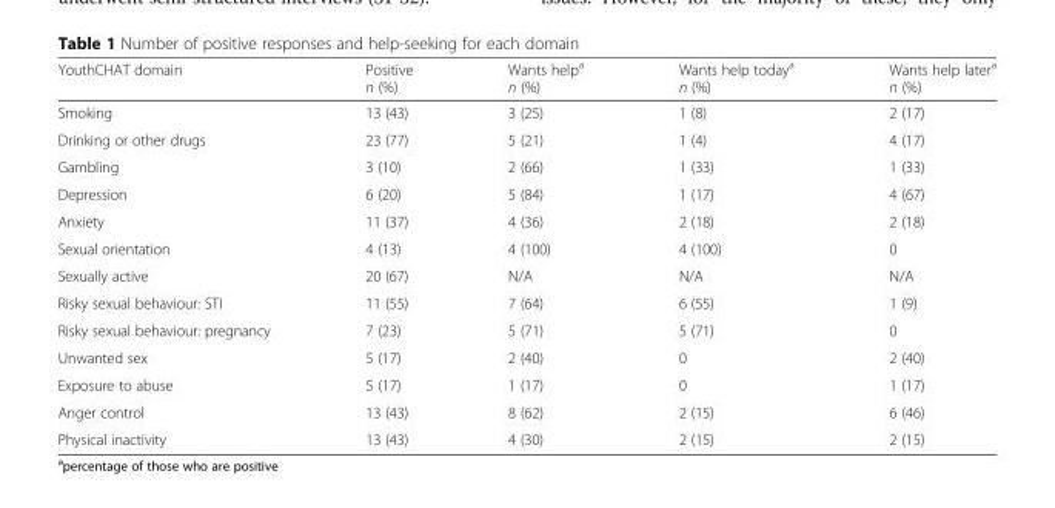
<table><thead><tr><td>YouthCHAT domain</td><td>Positive n (%)</td><td>Wants help<sup>a</sup> n (%)</td><td>Wants help today<sup>a</sup> n (%)</td><td>Wants help later<sup>a</sup> n (%)</td></tr></thead><tbody><tr><td>Smoking</td><td>13 (43)</td><td>3 (25)</td><td>1 (8)</td><td>2 (17)</td></tr><tr><td>Drinking or other drugs</td><td>23 (77)</td><td>5 (21)</td><td>1 (4)</td><td>4 (17)</td></tr><tr><td>Gambling</td><td>3 (10)</td><td>2 (66)</td><td>1 (33)</td><td>1 (33)</td></tr><tr><td>Depression</td><td>6 (20)</td><td>5 (84)</td><td>1 (17)</td><td>4 (67)</td></tr><tr><td>Anxiety</td><td>11 (37)</td><td>4 (36)</td><td>2 (18)</td><td>2 (18)</td></tr><tr><td>Sexual orientation</td><td>4 (13)</td><td>4 (100)</td><td>4 (100)</td><td>0</td></tr><tr><td>Sexually active</td><td>20 (67)</td><td>N/A</td><td>N/A</td><td>N/A</td></tr><tr><td>Risky sexual behaviour: STI</td><td>11 (55)</td><td>7 (64)</td><td>6 (55)</td><td>1 (9)</td></tr><tr><td>Risky sexual behaviour: pregnancy</td><td>7 (23)</td><td>5 (71)</td><td>5 (71)</td><td>0</td></tr><tr><td>Unwanted sex</td><td>5 (17)</td><td>2 (40)</td><td>0</td><td>2 (40)</td></tr><tr><td>Exposure to abuse</td><td>5 (17)</td><td>1 (17)</td><td>0</td><td>1 (17)</td></tr><tr><td>Anger control</td><td>13 (43)</td><td>8 (62)</td><td>2 (15)</td><td>6 (46)</td></tr><tr><td>Physical inactivity</td><td>13 (43)</td><td>4 (30)</td><td>2 (15)</td><td>2 (15)</td></tr></tbody></table>